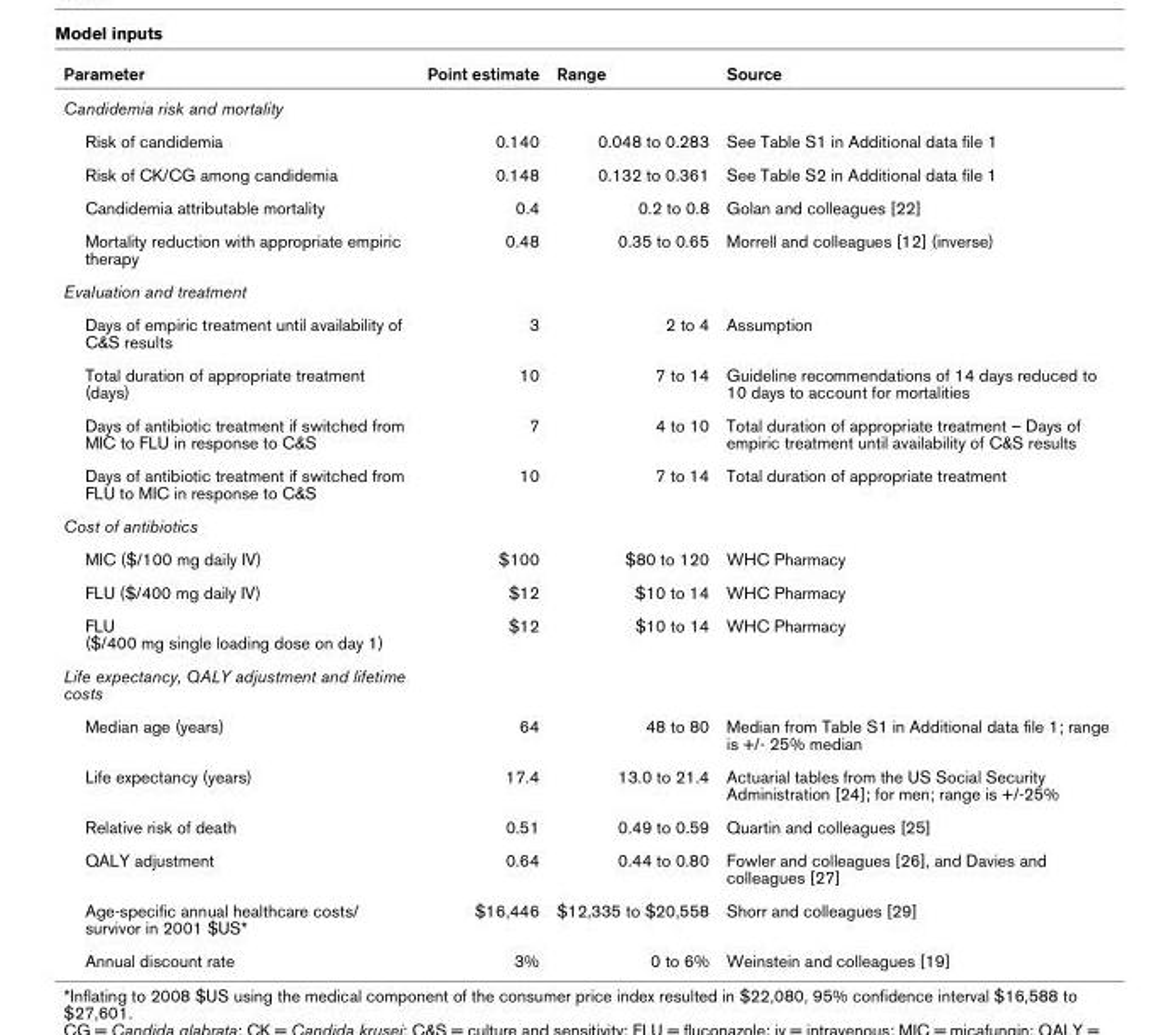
<table><thead><tr><td>Parameter</td><td>Point estimate</td><td>Range</td><td>Source</td></tr></thead><tbody><tr><td colspan="4">Candidemia risk and mortality</td></tr><tr><td>Risk of candidemia</td><td>0.140</td><td>0.048 to 0.283</td><td>See Table S1 in Additional data file 1</td></tr><tr><td>Risk of CK/CG among candidemia</td><td>0.148</td><td>0.132 to 0.361</td><td>See Table S2 in Additional data file 1</td></tr><tr><td>Candidemia attributable mortality</td><td>0.4</td><td>0.2 to 0.8</td><td>Golan and colleagues [22]</td></tr><tr><td>Mortality reduction with appropriate empiric therapy</td><td>0.48</td><td>0.35 to 0.65</td><td>Morrell and colleagues [12] (inverse)</td></tr><tr><td colspan="4">Evaluation and treatment</td></tr><tr><td>Days of empiric treatment until availability of C&amp;S results</td><td>3</td><td>2 to 4</td><td>Assumption</td></tr><tr><td>Total duration of appropriate treatment (days)</td><td>10</td><td>7 to 14</td><td>Guideline recommendations of 14 days reduced to 10 days to account for mortalities</td></tr><tr><td>Days of antibiotic treatment if switched from MIC to FLU in response to C&amp;S</td><td>7</td><td>4 to 10</td><td>Total duration of appropriate treatment – Days of empiric treatment until availability of C&amp;S results</td></tr><tr><td>Days of antibiotic treatment if switched from FLU to MIC in response to C&amp;S</td><td>10</td><td>7 to 14</td><td>Total duration of appropriate treatment</td></tr><tr><td colspan="4">Cost of antibiotics</td></tr><tr><td>MIC ($/100 mg daily IV)</td><td>$100</td><td>$80 to 120</td><td>WHC Pharmacy</td></tr><tr><td>FLU ($/400 mg daily IV)</td><td>$12</td><td>$10 to 14</td><td>WHC Pharmacy</td></tr><tr><td>FLU ($/400 mg single loading dose on day 1)</td><td>$12</td><td>$10 to 14</td><td>WHC Pharmacy</td></tr><tr><td colspan="4">Life expectancy, QALY adjustment and lifetime costs</td></tr><tr><td>Median age (years)</td><td>64</td><td>48 to 80</td><td>Median from Table S1 in Additional data file 1; range is +/- 25% median</td></tr><tr><td>Life expectancy (years)</td><td>17.4</td><td>13.0 to 21.4</td><td>Actuarial tables from the US Social Security Administration [24]; for men; range is +/-25%</td></tr><tr><td>Relative risk of death</td><td>0.51</td><td>0.49 to 0.59</td><td>Quartin and colleagues [25]</td></tr><tr><td>QALY adjustment</td><td>0.64</td><td>0.44 to 0.80</td><td>Fowler and colleagues [26], and Davies and colleagues [27]</td></tr><tr><td>Age-specific annual healthcare costs/ survivor in 2001 $US*</td><td>$16,446</td><td>$12,335 to $20,558</td><td>Shorr and colleagues [29]</td></tr><tr><td>Annual discount rate</td><td>3%</td><td>0 to 6%</td><td>Weinstein and colleagues [19]</td></tr></tbody></table>